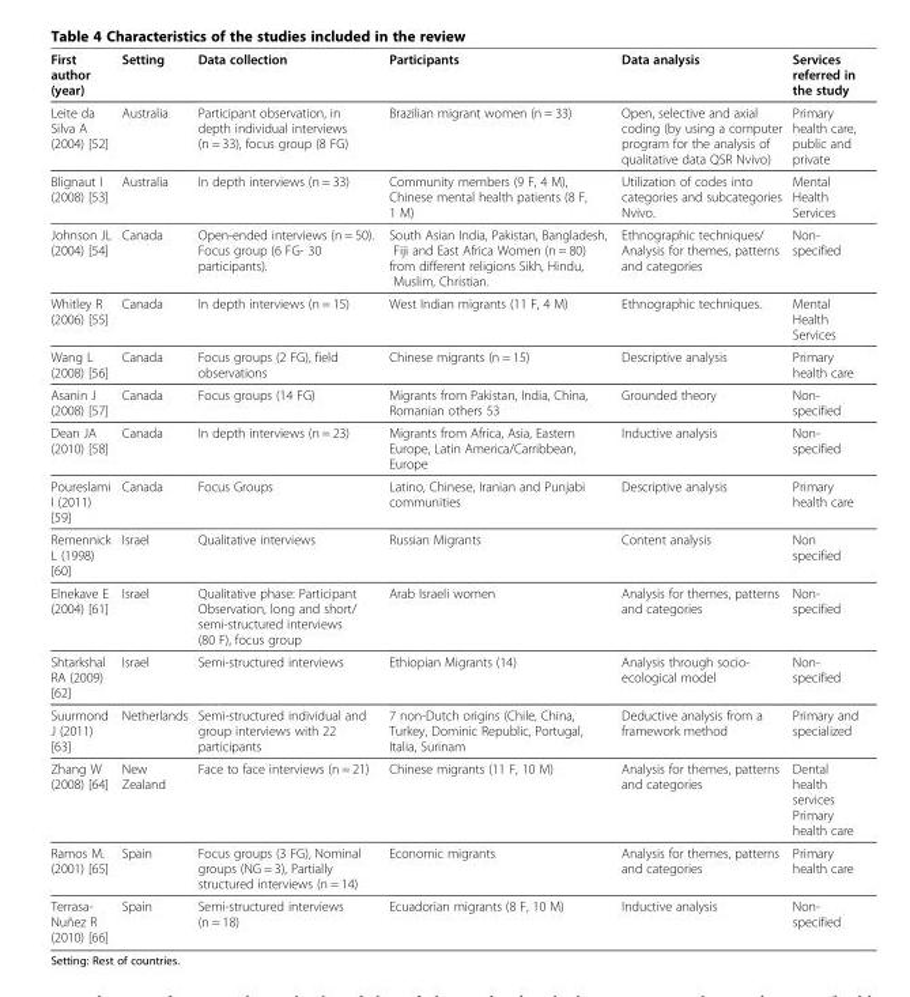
<table><thead><tr><td>First author (year)</td><td>Setting</td><td>Data collection</td><td>Participants</td><td>Data analysis</td><td>Services referred in the study</td></tr></thead><tbody><tr><td>Leite da Silva A (2004) [52]</td><td>Australia</td><td>Participant observation, in depth individual interviews (n = 33), focus group (8 FG)</td><td>Brazilian migrant women (n = 33)</td><td>Open, selective and axial coding (by using a computer program for the analysis of qualitative data QSR Nvivo)</td><td>Primary health care, public and private</td></tr><tr><td>Blignaut I (2008) [53]</td><td>Australia</td><td>In depth interviews (n = 33)</td><td>Community members (9 F, 4 M), Chinese mental health patients (8 F, 1 M)</td><td>Utilization of codes into categories and subcategories Nvivo.</td><td>Mental Health Services</td></tr><tr><td>Johnson JL (2004) [54]</td><td>Canada</td><td>Open-ended interviews (n = 50). Focus group (6 FG- 30 participants).</td><td>South Asian India, Pakistan, Bangladesh, Fiji and East Africa Women (n = 80) from different religions Sikh, Hindu, Muslim, Christian.</td><td>Ethnographic techniques/ Analysis for themes, patterns and categories</td><td>Non- specified</td></tr><tr><td>Whitley R (2006) [55]</td><td>Canada</td><td>In depth interviews (n = 15)</td><td>West Indian migrants (11 F, 4 M)</td><td>Ethnographic techniques.</td><td>Mental Health Services</td></tr><tr><td>Wang L (2008) [56]</td><td>Canada</td><td>Focus groups (2 FG), field observations</td><td>Chinese migrants (n = 15)</td><td>Descriptive analysis</td><td>Primary health care</td></tr><tr><td>Asanin J (2008) [57]</td><td>Canada</td><td>Focus groups (14 FG)</td><td>Migrants from Pakistan, India, China, Romanian others 53</td><td>Grounded theory</td><td>Non- specified</td></tr><tr><td>Dean JA (2010) [58]</td><td>Canada</td><td>In depth interviews (n = 23)</td><td>Migrants from Africa, Asia, Eastern Europe, Latin America/Carribbean, Europe</td><td>Inductive analysis</td><td>Non- specified</td></tr><tr><td>Poureslami I (2011) [59]</td><td>Canada</td><td>Focus Groups</td><td>Latino, Chinese, Iranian and Punjabi communities</td><td>Descriptive analysis</td><td>Primary health care</td></tr><tr><td>Remennick L (1998) [60]</td><td>Israel</td><td>Qualitative interviews</td><td>Russian Migrants</td><td>Content analysis</td><td>Non specified</td></tr><tr><td>Elnekave E (2004) [61]</td><td>Israel</td><td>Qualitative phase: Participant Observation, long and short/ semi-structured interviews (80 F), focus group</td><td>Arab Israeli women</td><td>Analysis for themes, patterns and categories</td><td>Non- specified</td></tr><tr><td>Shtarkshal RA (2009) [62]</td><td>Israel</td><td>Semi-structured interviews</td><td>Ethiopian Migrants (14)</td><td>Analysis through socio- ecological model</td><td>Non- specified</td></tr><tr><td>Suurmond J (2011) [63]</td><td>Netherlands</td><td>Semi-structured individual and group interviews with 22 participants</td><td>7 non-Dutch origins (Chile, China, Turkey, Dominic Republic, Portugal, Italia, Surinam</td><td>Deductive analysis from a framework method</td><td>Primary and specialized</td></tr><tr><td>Zhang W (2008) [64]</td><td>New Zealand</td><td>Face to face interviews (n = 21)</td><td>Chinese migrants (11 F, 10 M)</td><td>Analysis for themes, patterns and categories</td><td>Dental health services Primary health care</td></tr><tr><td>Ramos M. (2001) [65]</td><td>Spain</td><td>Focus groups (3 FG), Nominal groups (NG = 3), Partially structured interviews (n = 14)</td><td>Economic migrants</td><td>Analysis for themes, patterns and categories</td><td>Primary health care</td></tr><tr><td>Terrasa- Nuñez R (2010) [66]</td><td>Spain</td><td>Semi-structured interviews (n = 18)</td><td>Ecuadorian migrants (8 F, 10 M)</td><td>Inductive analysis</td><td>Non- specified</td></tr></tbody></table>